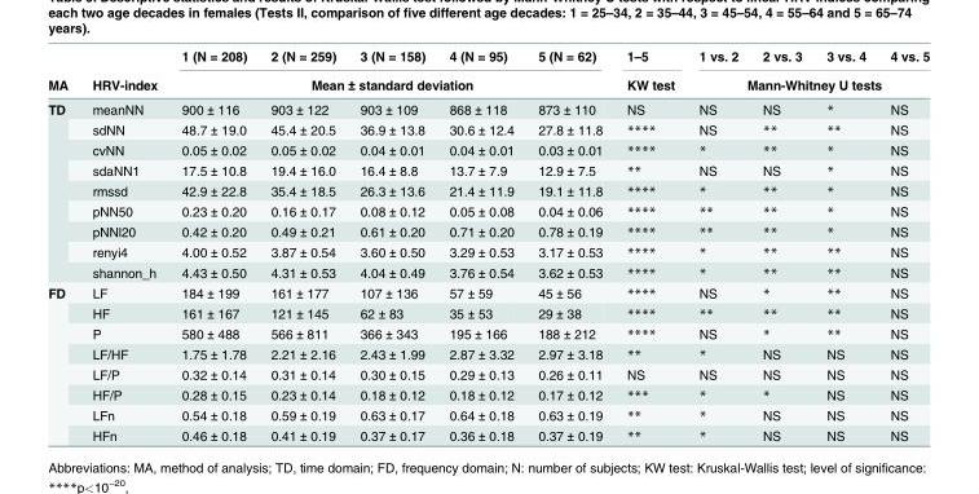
<table><thead><tr><td rowspan="2">MA</td><td rowspan="2">HRV-index</td><td>1 (N = 208)</td><td>2 (N = 259)</td><td>3 (N = 158)</td><td>4 (N = 95)</td><td>5 (N = 62)</td><td rowspan="2">1–5 KW test</td><td>1 vs. 2</td><td>2 vs. 3</td><td>3 vs. 4</td><td>4 vs. 5</td></tr><tr><td colspan="5">Mean ± standard deviation</td><td colspan="4">Mann-Whitney U tests</td></tr></thead><tbody><tr><td rowspan="9">TD</td><td>meanNN</td><td>900 ± 116</td><td>903 ± 122</td><td>903 ± 109</td><td>868 ± 118</td><td>873 ± 110</td><td>NS</td><td>NS</td><td>NS</td><td>*</td><td>NS</td></tr><tr><td>sdNN</td><td>48.7 ± 19.0</td><td>45.4 ± 20.5</td><td>36.9 ± 13.8</td><td>30.6 ± 12.4</td><td>27.8 ± 11.8</td><td>****</td><td>NS</td><td>**</td><td>**</td><td>NS</td></tr><tr><td>cvNN</td><td>0.05 ± 0.02</td><td>0.05 ± 0.02</td><td>0.04 ± 0.01</td><td>0.04 ± 0.01</td><td>0.03 ± 0.01</td><td>****</td><td>*</td><td>**</td><td>*</td><td>NS</td></tr><tr><td>sdaNN1</td><td>17.5 ± 10.8</td><td>19.4 ± 16.0</td><td>16.4 ± 8.8</td><td>13.7 ± 7.9</td><td>12.9 ± 7.5</td><td>**</td><td>NS</td><td>NS</td><td>*</td><td>NS</td></tr><tr><td>rmssd</td><td>42.9 ± 22.8</td><td>35.4 ± 18.5</td><td>26.3 ± 13.6</td><td>21.4 ± 11.9</td><td>19.1 ± 11.8</td><td>****</td><td>*</td><td>**</td><td>*</td><td>NS</td></tr><tr><td>pNN50</td><td>0.23 ± 0.20</td><td>0.16 ± 0.17</td><td>0.08 ± 0.12</td><td>0.05 ± 0.08</td><td>0.04 ± 0.06</td><td>****</td><td>**</td><td>**</td><td>*</td><td>NS</td></tr><tr><td>pNNl20</td><td>0.42 ± 0.20</td><td>0.49 ± 0.21</td><td>0.61 ± 0.20</td><td>0.71 ± 0.20</td><td>0.78 ± 0.19</td><td>****</td><td>**</td><td>**</td><td>*</td><td>NS</td></tr><tr><td>renyi4</td><td>4.00 ± 0.52</td><td>3.87 ± 0.54</td><td>3.60 ± 0.50</td><td>3.29 ± 0.53</td><td>3.17 ± 0.53</td><td>****</td><td>*</td><td>**</td><td>**</td><td>NS</td></tr><tr><td>shannon_h</td><td>4.43 ± 0.50</td><td>4.31 ± 0.53</td><td>4.04 ± 0.49</td><td>3.76 ± 0.54</td><td>3.62 ± 0.53</td><td>****</td><td>*</td><td>**</td><td>**</td><td>NS</td></tr><tr><td rowspan="8">FD</td><td>LF</td><td>184 ± 199</td><td>161 ± 177</td><td>107 ± 136</td><td>57 ± 59</td><td>45 ± 56</td><td>****</td><td>NS</td><td>*</td><td>**</td><td>NS</td></tr><tr><td>HF</td><td>161 ± 167</td><td>121 ± 145</td><td>62 ± 83</td><td>35 ± 53</td><td>29 ± 38</td><td>****</td><td>**</td><td>**</td><td>**</td><td>NS</td></tr><tr><td>P</td><td>580 ± 488</td><td>566 ± 811</td><td>366 ± 343</td><td>195 ± 166</td><td>188 ± 212</td><td>****</td><td>NS</td><td>*</td><td>**</td><td>NS</td></tr><tr><td>LF/HF</td><td>1.75 ± 1.78</td><td>2.21 ± 2.16</td><td>2.43 ± 1.99</td><td>2.87 ± 3.32</td><td>2.97 ± 3.18</td><td>**</td><td>*</td><td>NS</td><td>NS</td><td>NS</td></tr><tr><td>LF/P</td><td>0.32 ± 0.14</td><td>0.31 ± 0.14</td><td>0.30 ± 0.15</td><td>0.29 ± 0.13</td><td>0.26 ± 0.11</td><td>NS</td><td>NS</td><td>NS</td><td>NS</td><td>NS</td></tr><tr><td>HF/P</td><td>0.28 ± 0.15</td><td>0.23 ± 0.14</td><td>0.18 ± 0.12</td><td>0.18 ± 0.12</td><td>0.17 ± 0.12</td><td>***</td><td>*</td><td>*</td><td>NS</td><td>NS</td></tr><tr><td>LFn</td><td>0.54 ± 0.18</td><td>0.59 ± 0.19</td><td>0.63 ± 0.17</td><td>0.64 ± 0.18</td><td>0.63 ± 0.19</td><td>**</td><td>*</td><td>NS</td><td>NS</td><td>NS</td></tr><tr><td>HFn</td><td>0.46 ± 0.18</td><td>0.41 ± 0.19</td><td>0.37 ± 0.17</td><td>0.36 ± 0.18</td><td>0.37 ± 0.19</td><td>**</td><td>*</td><td>NS</td><td>NS</td><td>NS</td></tr></tbody></table>